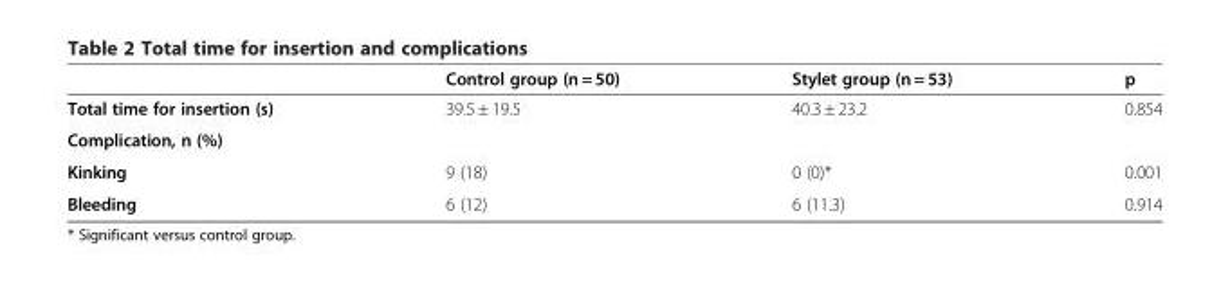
<table><thead><tr><td></td><td>Control group (n = 50)</td><td>Stylet group (n = 53)</td><td>p</td></tr></thead><tbody><tr><td>Total time for insertion (s)</td><td>39.5 ± 19.5</td><td>40.3 ± 23.2</td><td>0.854</td></tr><tr><td colspan="4">Complication, n (%)</td></tr><tr><td>Kinking</td><td>9 (18)</td><td>0 (0)*</td><td>0.001</td></tr><tr><td>Bleeding</td><td>6 (12)</td><td>6 (11.3)</td><td>0.914</td></tr></tbody></table>